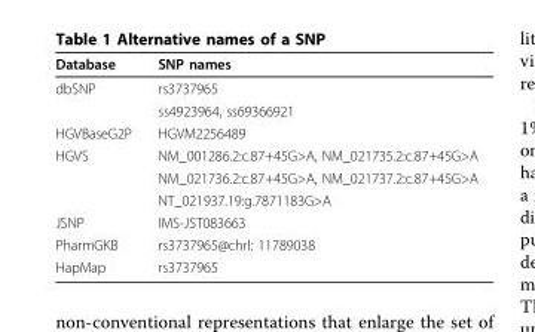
<table><thead><tr><td>Database</td><td>SNP names</td></tr></thead><tbody><tr><td rowspan="2">dbSNP</td><td>rs3737965</td></tr><tr><td>ss4923964, ss69366921</td></tr><tr><td>HGVBaseG2P</td><td>HGVM2256489</td></tr><tr><td rowspan="3">HGVS</td><td>NM_001286.2:c.87+45G&gt;A, NM_021735.2:c.87+45G&gt;A</td></tr><tr><td>NM_021736.2:c.87+45G&gt;A, NM_021737.2:c.87+45G&gt;A</td></tr><tr><td>NT_021937.19:g.7871183G&gt;A</td></tr><tr><td>JSNP</td><td>IMS-JST083663</td></tr><tr><td>PharmGKB</td><td>rs3737965@chrl: 11789038</td></tr><tr><td>HapMap</td><td>rs3737965</td></tr></tbody></table>